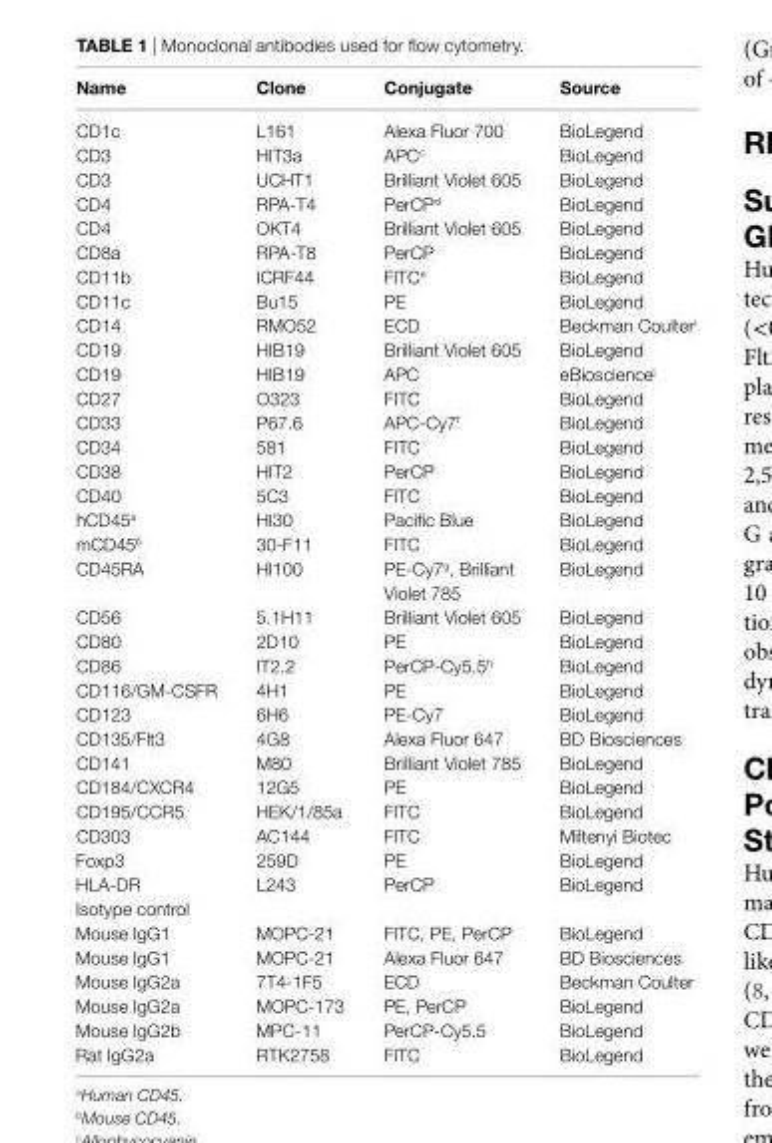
<table><thead><tr><td>name</td><td>clone</td><td>conjugate</td><td>source</td></tr></thead><tbody><tr><td>CD1c</td><td>L161</td><td>Alexa Fluor 700</td><td>BioLegend</td></tr><tr><td>CD3</td><td>HIT3a</td><td>APC<sup>c</sup></td><td>BioLegend</td></tr><tr><td>CD3</td><td>UCHT1</td><td>Brilliant Violet 605</td><td>BioLegend</td></tr><tr><td>CD4</td><td>RPA-T4</td><td>PerCP<sup>d</sup></td><td>BioLegend</td></tr><tr><td>CD4</td><td>OKT4</td><td>Brilliant Violet 605</td><td>BioLegend</td></tr><tr><td>CD8a</td><td>RPA-T8</td><td>PerCP</td><td>BioLegend</td></tr><tr><td>CD11b</td><td>ICRF44</td><td>FITC<sup>e</sup></td><td>BioLegend</td></tr><tr><td>CD11c</td><td>Bu15</td><td>PE</td><td>BioLegend</td></tr><tr><td>CD14</td><td>RMO52</td><td>ECD</td><td>Beckman Coulter<sup>i</sup></td></tr><tr><td>CD19</td><td>HIB19</td><td>Brilliant Violet 605</td><td>BioLegend</td></tr><tr><td>CD19</td><td>HIB19</td><td>APC</td><td>eBioscience<sup>j</sup></td></tr><tr><td>CD27</td><td>O323</td><td>FITC</td><td>BioLegend</td></tr><tr><td>CD33</td><td>P67.6</td><td>APC-Cy7<sup>f</sup></td><td>BioLegend</td></tr><tr><td>CD34</td><td>581</td><td>FITC</td><td>BioLegend</td></tr><tr><td>CD38</td><td>HIT2</td><td>PerCP</td><td>BioLegend</td></tr><tr><td>CD40</td><td>5C3</td><td>FITC</td><td>BioLegend</td></tr><tr><td>hCD45<sup>a</sup></td><td>HI30</td><td>Pacific Blue</td><td>BioLegend</td></tr><tr><td>mCD45<sup>b</sup></td><td>30-F11</td><td>FITC</td><td>BioLegend</td></tr><tr><td>CD45RA</td><td>HI100</td><td>PE-Cy7<sup>g</sup>, Brilliant Violet 785</td><td>BioLegend</td></tr><tr><td>CD56</td><td>5.1H11</td><td>Brilliant Violet 605</td><td>BioLegend</td></tr><tr><td>CD80</td><td>2D10</td><td>PE</td><td>BioLegend</td></tr><tr><td>CD86</td><td>IT2.2</td><td>PerCP-Cy5.5<sup>h</sup></td><td>BioLegend</td></tr><tr><td>CD116/GM-CSFR</td><td>4H1</td><td>PE</td><td>BioLegend</td></tr><tr><td>CD123</td><td>6H6</td><td>PE-Cy7</td><td>BioLegend</td></tr><tr><td>CD135/Flt3</td><td>4G8</td><td>Alexa Fluor 647</td><td>BD Biosciences</td></tr><tr><td>CD141</td><td>M80</td><td>Brilliant Violet 785</td><td>BioLegend</td></tr><tr><td>CD184/CXCR4</td><td>12G5</td><td>PE</td><td>BioLegend</td></tr><tr><td>CD195/CCR5</td><td>HEK/1/85a</td><td>FITC</td><td>BioLegend</td></tr><tr><td>CD303</td><td>AC144</td><td>FITC</td><td>Miltenyi Biotec</td></tr><tr><td>Foxp3</td><td>259D</td><td>PE</td><td>BioLegend</td></tr><tr><td>HLA-DR</td><td>L243</td><td>PerCP</td><td>BioLegend</td></tr><tr><td colspan="4">Isotype control</td></tr><tr><td>Mouse IgG1</td><td>MOPC-21</td><td>FITC, PE, PerCP</td><td>BioLegend</td></tr><tr><td>Mouse IgG1</td><td>MOPC-21</td><td>Alexa Fluor 647</td><td>BD Biosciences</td></tr><tr><td>Mouse IgG2a</td><td>7T4-1F5</td><td>ECD</td><td>Beckman Coulter</td></tr><tr><td>Mouse IgG2a</td><td>MOPC-173</td><td>PE, PerCP</td><td>BioLegend</td></tr><tr><td>Mouse IgG2b</td><td>MPC-11</td><td>PerCP-Cy5.5</td><td>BioLegend</td></tr><tr><td>Rat IgG2a</td><td>RTK2758</td><td>FITC</td><td>BioLegend</td></tr></tbody></table>